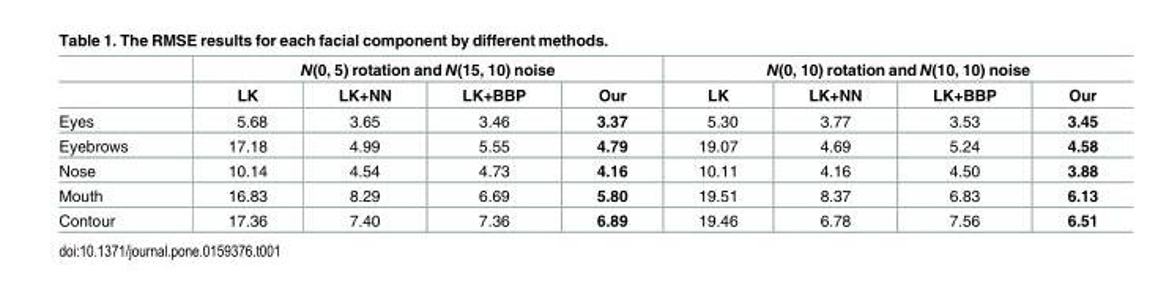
<table><thead><tr><td rowspan="2"></td><td colspan="4">N(0, 5) rotation and N(15, 10) noise</td><td colspan="4">N(0, 10) rotation and N(10, 10) noise</td></tr><tr><td>LK</td><td>LK+NN</td><td>LK+BBP</td><td>Our</td><td>LK</td><td>LK+NN</td><td>LK+BBP</td><td>Our</td></tr></thead><tbody><tr><td>Eyes</td><td>5.68</td><td>3.65</td><td>3.46</td><td>3.37</td><td>5.30</td><td>3.77</td><td>3.53</td><td>3.45</td></tr><tr><td>Eyebrows</td><td>17.18</td><td>4.99</td><td>5.55</td><td>4.79</td><td>19.07</td><td>4.69</td><td>5.24</td><td>4.58</td></tr><tr><td>Nose</td><td>10.14</td><td>4.54</td><td>4.73</td><td>4.16</td><td>10.11</td><td>4.16</td><td>4.50</td><td>3.88</td></tr><tr><td>Mouth</td><td>16.83</td><td>8.29</td><td>6.69</td><td>5.80</td><td>19.51</td><td>8.37</td><td>6.83</td><td>6.13</td></tr><tr><td>Contour</td><td>17.36</td><td>7.40</td><td>7.36</td><td>6.89</td><td>19.46</td><td>6.78</td><td>7.56</td><td>6.51</td></tr></tbody></table>